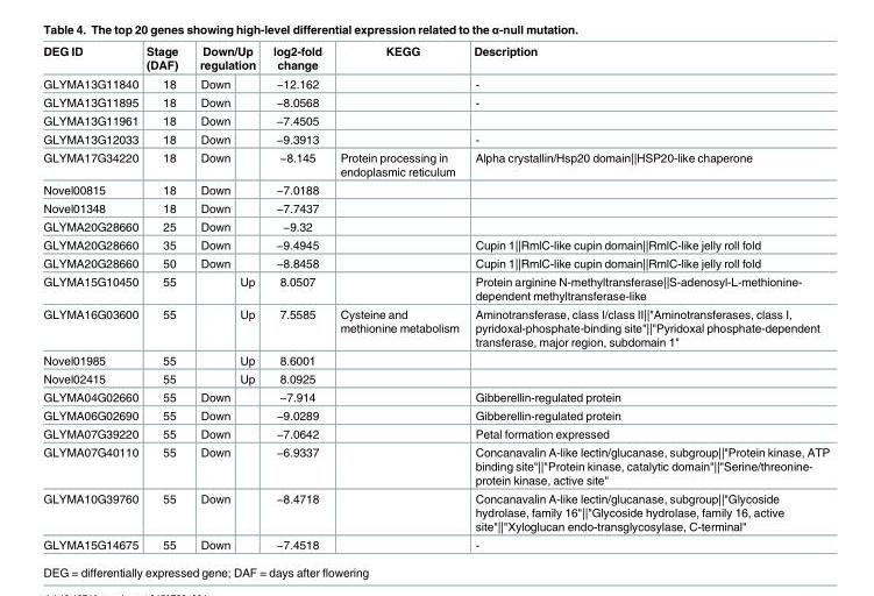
<table><thead><tr><td rowspan="2">DEG ID GLYMA13G11840</td><td rowspan="2">Stage (DAF) 18</td><td colspan="2">Down/Up regulation</td><td rowspan="2">log2-fold change −12.162</td><td rowspan="2">KEGG</td><td rowspan="2">Description -</td></tr><tr><td>Down</td><td></td></tr></thead><tbody><tr><td>GLYMA13G11895</td><td>18</td><td>Down</td><td></td><td>−8.0568</td><td></td><td>-</td></tr><tr><td>GLYMA13G11961</td><td>18</td><td>Down</td><td></td><td>−7.4505</td><td></td><td></td></tr><tr><td>GLYMA13G12033</td><td>18</td><td>Down</td><td></td><td>−9.3913</td><td></td><td>-</td></tr><tr><td>GLYMA17G34220</td><td>18</td><td>Down</td><td></td><td>−8.145</td><td>Protein processing in endoplasmic reticulum</td><td>Alpha crystallin/Hsp20 domain||HSP20-like chaperone</td></tr><tr><td>Novel00815</td><td>18</td><td>Down</td><td></td><td>−7.0188</td><td></td><td></td></tr><tr><td>Novel01348</td><td>18</td><td>Down</td><td></td><td>−7.7437</td><td></td><td></td></tr><tr><td>GLYMA20G28660</td><td>25</td><td>Down</td><td></td><td>−9.32</td><td></td><td></td></tr><tr><td>GLYMA20G28660</td><td>35</td><td>Down</td><td></td><td>−9.4945</td><td></td><td>Cupin 1||RmlC-like cupin domain||RmlC-like jelly roll fold</td></tr><tr><td>GLYMA20G28660</td><td>50</td><td>Down</td><td></td><td>−8.8458</td><td></td><td>Cupin 1||RmlC-like cupin domain||RmlC-like jelly roll fold</td></tr><tr><td>GLYMA15G10450</td><td>55</td><td></td><td>Up</td><td>8.0507</td><td></td><td>Protein arginine N-methyltransferase||S-adenosyl-L-methionine- dependent methyltransferase-like</td></tr><tr><td>GLYMA16G03600</td><td>55</td><td></td><td>Up</td><td>7.5585</td><td>Cysteine and methionine metabolism</td><td>Aminotransferase, class I/class II||&quot;Aminotransferases, class I, pyridoxal-phosphate-binding site&quot;||&quot;Pyridoxal phosphate-dependent transferase, major region, subdomain 1&quot;</td></tr><tr><td>Novel01985</td><td>55</td><td></td><td>Up</td><td>8.6001</td><td></td><td></td></tr><tr><td>Novel02415</td><td>55</td><td></td><td>Up</td><td>8.0925</td><td></td><td></td></tr><tr><td>GLYMA04G02660</td><td>55</td><td>Down</td><td></td><td>−7.914</td><td></td><td>Gibberellin-regulated protein</td></tr><tr><td>GLYMA06G02690</td><td>55</td><td>Down</td><td></td><td>−9.0289</td><td></td><td>Gibberellin-regulated protein</td></tr><tr><td>GLYMA07G39220</td><td>55</td><td>Down</td><td></td><td>−7.0642</td><td></td><td>Petal formation expressed</td></tr><tr><td>GLYMA07G40110</td><td>55</td><td>Down</td><td></td><td>−6.9337</td><td></td><td>Concanavalin A-like lectin/glucanase, subgroup||&quot;Protein kinase, ATP binding site&quot;||&quot;Protein kinase, catalytic domain&quot;||&quot;Serine/threonine- protein kinase, active site&quot;</td></tr><tr><td>GLYMA10G39760</td><td>55</td><td>Down</td><td></td><td>−8.4718</td><td></td><td>Concanavalin A-like lectin/glucanase, subgroup||&quot;Glycoside hydrolase, family 16&quot;||&quot;Glycoside hydrolase, family 16, active site&quot;||&quot;Xyloglucan endo-transglycosylase, C-terminal&quot;</td></tr><tr><td>GLYMA15G14675</td><td>55</td><td>Down</td><td></td><td>−7.4518</td><td></td><td>-</td></tr></tbody></table>